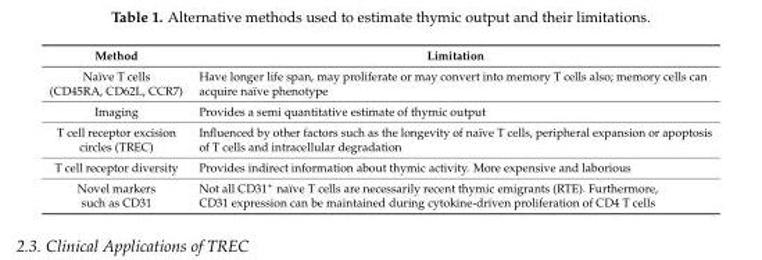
<table><thead><tr><td>Method</td><td>Limitation</td></tr></thead><tbody><tr><td>Naïve T cells (CD45RA, CD62L, CCR7)</td><td>Have longer life span, may proliferate or may convert into memory T cells also; memory cells can acquire naïve phenotype</td></tr><tr><td>Imaging</td><td>Provides a semi quantitative estimate of thymic output</td></tr><tr><td>T cell receptor excision circles (TREC)</td><td>Influenced by other factors such as the longevity of naïve T cells, peripheral expansion or apoptosis of T cells and intracellular degradation</td></tr><tr><td>T cell receptor diversity</td><td>Provides indirect information about thymic activity. More expensive and laborious</td></tr><tr><td>Novel markers such as CD31</td><td>Not all CD31<sup>+</sup> naïve T cells are necessarily recent thymic emigrants (RTE). Furthermore, CD31 expression can be maintained during cytokine-driven proliferation of CD4 T cells</td></tr></tbody></table>